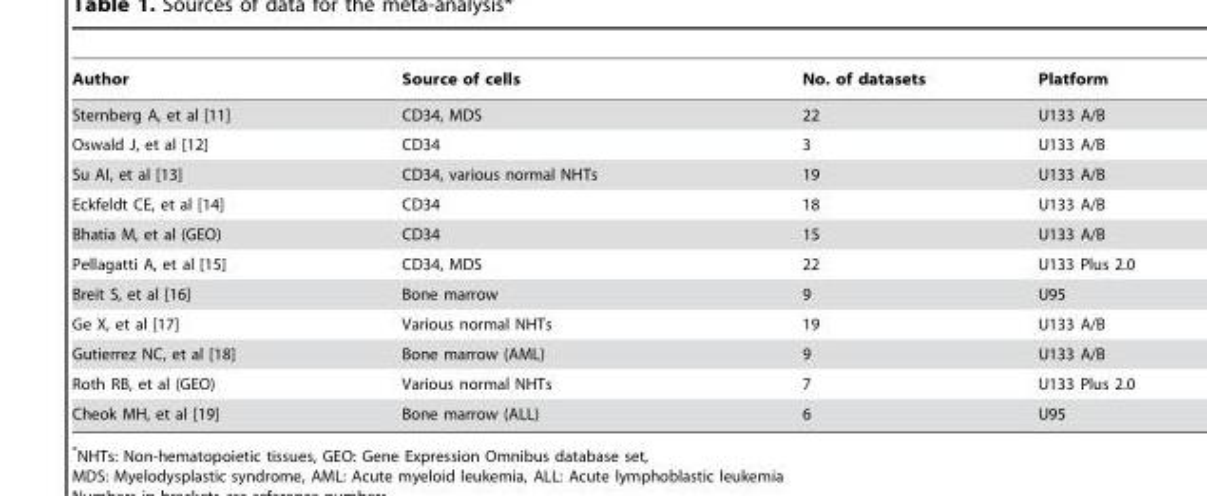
<table><thead><tr><td>Author</td><td>Source of cells</td><td>No. of datasets</td><td>Platform</td></tr></thead><tbody><tr><td>Sternberg A, et al [11]</td><td>CD34, MDS</td><td>22</td><td>U133 A/B</td></tr><tr><td>Oswald J, et al [12]</td><td>CD34</td><td>3</td><td>U133 A/B</td></tr><tr><td>Su AI, et al [13]</td><td>CD34, various normal NHTs</td><td>19</td><td>U133 A/B</td></tr><tr><td>Eckfeldt CE, et al [14]</td><td>CD34</td><td>18</td><td>U133 A/B</td></tr><tr><td>Bhatia M, et al (GEO)</td><td>CD34</td><td>15</td><td>U133 A/B</td></tr><tr><td>Pellagatti A, et al [15]</td><td>CD34, MDS</td><td>22</td><td>U133 Plus 2.0</td></tr><tr><td>Breit S, et al [16]</td><td>Bone marrow</td><td>9</td><td>U95</td></tr><tr><td>Ge X, et al [17]</td><td>Various normal NHTs</td><td>19</td><td>U133 A/B</td></tr><tr><td>Gutierrez NC, et al [18]</td><td>Bone marrow (AML)</td><td>9</td><td>U133 A/B</td></tr><tr><td>Roth RB, et al (GEO)</td><td>Various normal NHTs</td><td>7</td><td>U133 Plus 2.0</td></tr><tr><td>Cheok MH, et al [19]</td><td>Bone marrow (ALL)</td><td>6</td><td>U95</td></tr></tbody></table>